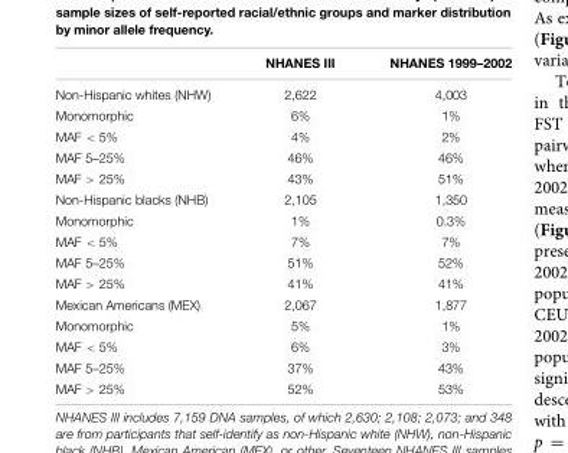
<table><thead><tr><td></td><td>NHANES III</td><td>NHANES 1999–2002</td></tr></thead><tbody><tr><td>Non-Hispanic whites (NHW)</td><td>2,622</td><td>4,003</td></tr><tr><td>Monomorphic</td><td>6%</td><td>1%</td></tr><tr><td>MAF &lt; 5%</td><td>4%</td><td>2%</td></tr><tr><td>MAF 5–25%</td><td>46%</td><td>46%</td></tr><tr><td>MAF &gt; 25%</td><td>43%</td><td>51%</td></tr><tr><td>Non-Hispanic blacks (NHB)</td><td>2,105</td><td>1,350</td></tr><tr><td>Monomorphic</td><td>1%</td><td>0.3%</td></tr><tr><td>MAF &lt; 5%</td><td>7%</td><td>7%</td></tr><tr><td>MAF 5–25%</td><td>51%</td><td>52%</td></tr><tr><td>MAF &gt; 25%</td><td>41%</td><td>41%</td></tr><tr><td>Mexican Americans (MEX)</td><td>2,067</td><td>1,877</td></tr><tr><td>Monomorphic</td><td>5%</td><td>1%</td></tr><tr><td>MAF &lt; 5%</td><td>6%</td><td>3%</td></tr><tr><td>MAF 5–25%</td><td>37%</td><td>43%</td></tr><tr><td>MAF &gt; 25%</td><td>52%</td><td>53%</td></tr></tbody></table>